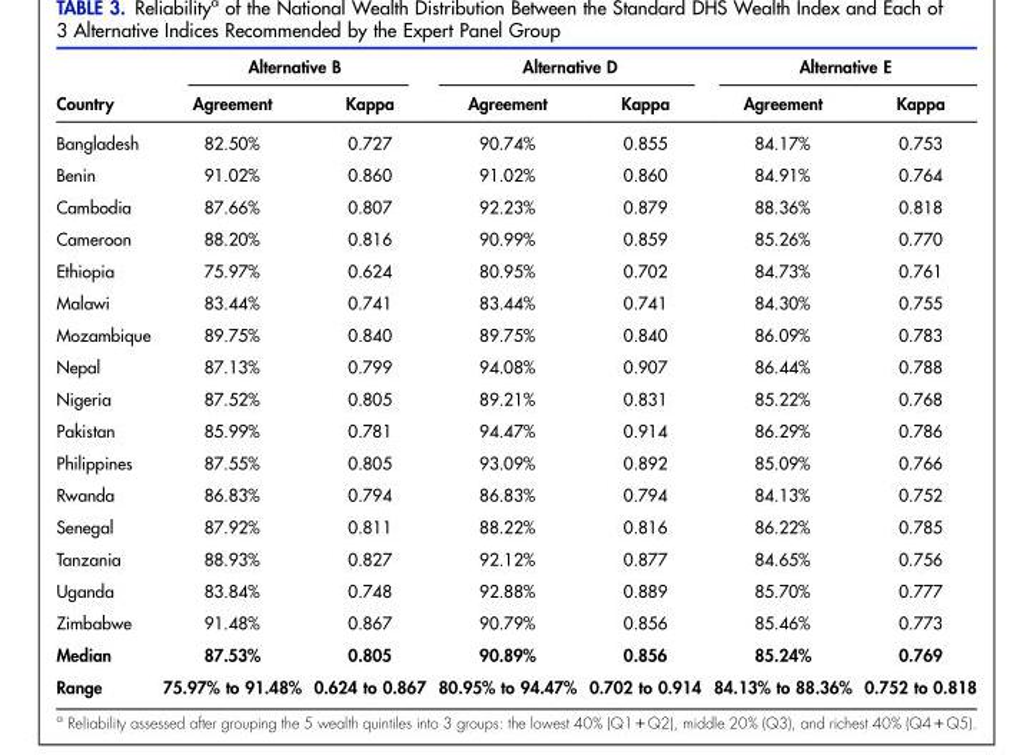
<table><thead><tr><td rowspan="2">Country</td><td colspan="2">Alternative B</td><td colspan="2">Alternative D</td><td colspan="2">Alternative E</td></tr><tr><td>Agreement</td><td>Kappa</td><td>Agreement</td><td>Kappa</td><td>Agreement</td><td>Kappa</td></tr></thead><tbody><tr><td>Bangladesh</td><td>82.50%</td><td>0.727</td><td>90.74%</td><td>0.855</td><td>84.17%</td><td>0.753</td></tr><tr><td>Benin</td><td>91.02%</td><td>0.860</td><td>91.02%</td><td>0.860</td><td>84.91%</td><td>0.764</td></tr><tr><td>Cambodia</td><td>87.66%</td><td>0.807</td><td>92.23%</td><td>0.879</td><td>88.36%</td><td>0.818</td></tr><tr><td>Cameroon</td><td>88.20%</td><td>0.816</td><td>90.99%</td><td>0.859</td><td>85.26%</td><td>0.770</td></tr><tr><td>Ethiopia</td><td>75.97%</td><td>0.624</td><td>80.95%</td><td>0.702</td><td>84.73%</td><td>0.761</td></tr><tr><td>Malawi</td><td>83.44%</td><td>0.741</td><td>83.44%</td><td>0.741</td><td>84.30%</td><td>0.755</td></tr><tr><td>Mozambique</td><td>89.75%</td><td>0.840</td><td>89.75%</td><td>0.840</td><td>86.09%</td><td>0.783</td></tr><tr><td>Nepal</td><td>87.13%</td><td>0.799</td><td>94.08%</td><td>0.907</td><td>86.44%</td><td>0.788</td></tr><tr><td>Nigeria</td><td>87.52%</td><td>0.805</td><td>89.21%</td><td>0.831</td><td>85.22%</td><td>0.768</td></tr><tr><td>Pakistan</td><td>85.99%</td><td>0.781</td><td>94.47%</td><td>0.914</td><td>86.29%</td><td>0.786</td></tr><tr><td>Philippines</td><td>87.55%</td><td>0.805</td><td>93.09%</td><td>0.892</td><td>85.09%</td><td>0.766</td></tr><tr><td>Rwanda</td><td>86.83%</td><td>0.794</td><td>86.83%</td><td>0.794</td><td>84.13%</td><td>0.752</td></tr><tr><td>Senegal</td><td>87.92%</td><td>0.811</td><td>88.22%</td><td>0.816</td><td>86.22%</td><td>0.785</td></tr><tr><td>Tanzania</td><td>88.93%</td><td>0.827</td><td>92.12%</td><td>0.877</td><td>84.65%</td><td>0.756</td></tr><tr><td>Uganda</td><td>83.84%</td><td>0.748</td><td>92.88%</td><td>0.889</td><td>85.70%</td><td>0.777</td></tr><tr><td>Zimbabwe</td><td>91.48%</td><td>0.867</td><td>90.79%</td><td>0.856</td><td>85.46%</td><td>0.773</td></tr><tr><td>Median</td><td>87.53%</td><td>0.805</td><td>90.89%</td><td>0.856</td><td>85.24%</td><td>0.769</td></tr><tr><td>Range</td><td>75.97% to 91.48%</td><td>0.624 to 0.867</td><td>80.95% to 94.47%</td><td>0.702 to 0.914</td><td>84.13% to 88.36%</td><td>0.752 to 0.818</td></tr></tbody></table>